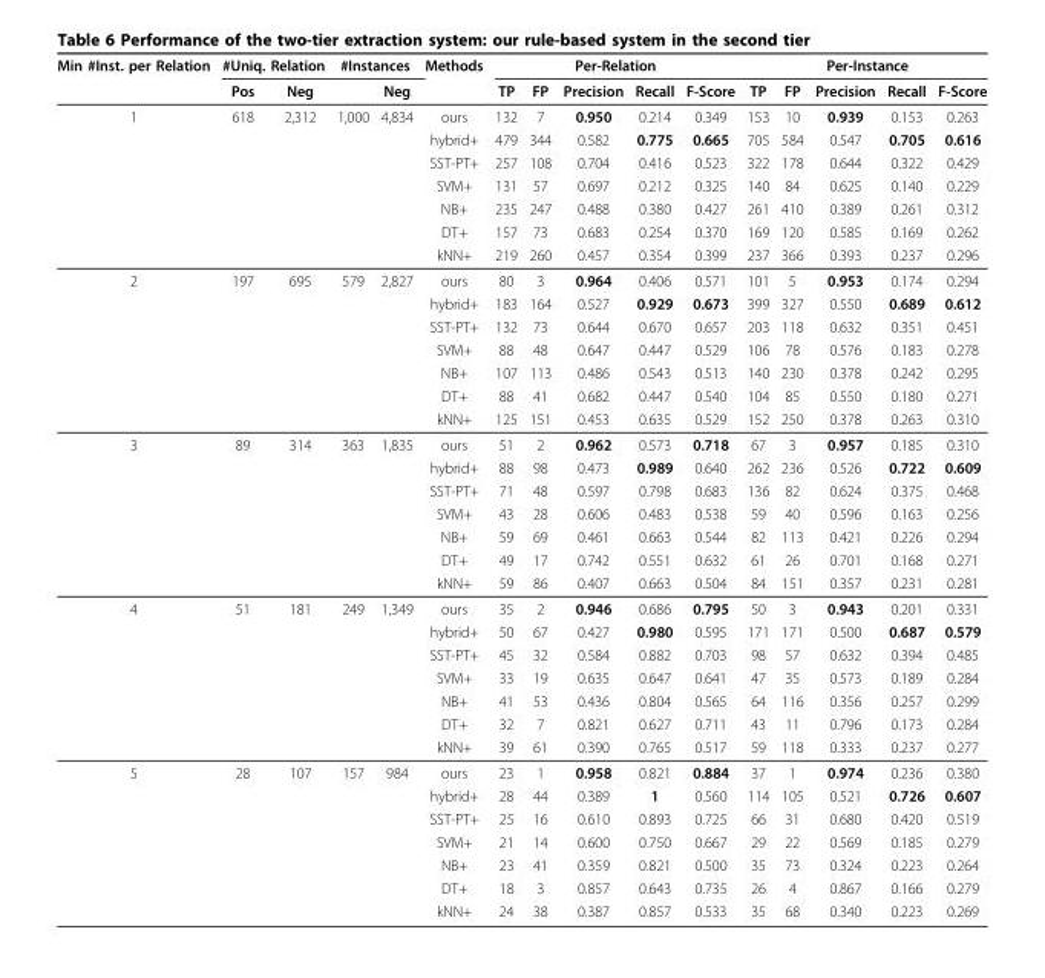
<table><thead><tr><td rowspan="2">Min #Inst. per Relation</td><td colspan="2">#Uniq. Relation</td><td colspan="2">#Instances</td><td rowspan="2">Methods</td><td colspan="5">Per-Relation</td><td colspan="5">Per-Instance</td></tr><tr><td>Pos</td><td>Neg</td><td></td><td>Neg</td><td>TP</td><td>FP</td><td>Precision</td><td>Recall</td><td>F-Score</td><td>TP</td><td>FP</td><td>Precision</td><td>Recall</td><td>F-Score</td></tr></thead><tbody><tr><td rowspan="7">1</td><td>618</td><td>2,312</td><td>1,000</td><td>4,834</td><td>ours</td><td>132</td><td>7</td><td>0.950</td><td>0.214</td><td>0.349</td><td>153</td><td>10</td><td>0.939</td><td>0.153</td><td>0.263</td></tr><tr><td></td><td></td><td></td><td></td><td>hybrid+</td><td>479</td><td>344</td><td>0.582</td><td>0.775</td><td>0.665</td><td>705</td><td>584</td><td>0.547</td><td>0.705</td><td>0.616</td></tr><tr><td></td><td></td><td></td><td></td><td>SST-PT+</td><td>257</td><td>108</td><td>0.704</td><td>0.416</td><td>0.523</td><td>322</td><td>178</td><td>0.644</td><td>0.322</td><td>0.429</td></tr><tr><td></td><td></td><td></td><td></td><td>SVM+</td><td>131</td><td>57</td><td>0.697</td><td>0.212</td><td>0.325</td><td>140</td><td>84</td><td>0.625</td><td>0.140</td><td>0.229</td></tr><tr><td></td><td></td><td></td><td></td><td>NB+</td><td>235</td><td>247</td><td>0.488</td><td>0.380</td><td>0.427</td><td>261</td><td>410</td><td>0.389</td><td>0.261</td><td>0.312</td></tr><tr><td></td><td></td><td></td><td></td><td>DT+</td><td>157</td><td>73</td><td>0.683</td><td>0.254</td><td>0.370</td><td>169</td><td>120</td><td>0.585</td><td>0.169</td><td>0.262</td></tr><tr><td></td><td></td><td></td><td></td><td>kNN+</td><td>219</td><td>260</td><td>0.457</td><td>0.354</td><td>0.399</td><td>237</td><td>366</td><td>0.393</td><td>0.237</td><td>0.296</td></tr><tr><td rowspan="7">2</td><td>197</td><td>695</td><td>579</td><td>2,827</td><td>ours</td><td>80</td><td>3</td><td>0.964</td><td>0.406</td><td>0.571</td><td>101</td><td>5</td><td>0.953</td><td>0.174</td><td>0.294</td></tr><tr><td></td><td></td><td></td><td></td><td>hybrid+</td><td>183</td><td>164</td><td>0.527</td><td>0.929</td><td>0.673</td><td>399</td><td>327</td><td>0.550</td><td>0.689</td><td>0.612</td></tr><tr><td></td><td></td><td></td><td></td><td>SST-PT+</td><td>132</td><td>73</td><td>0.644</td><td>0.670</td><td>0.657</td><td>203</td><td>118</td><td>0.632</td><td>0.351</td><td>0.451</td></tr><tr><td></td><td></td><td></td><td></td><td>SVM+</td><td>88</td><td>48</td><td>0.647</td><td>0.447</td><td>0.529</td><td>106</td><td>78</td><td>0.576</td><td>0.183</td><td>0.278</td></tr><tr><td></td><td></td><td></td><td></td><td>NB+</td><td>107</td><td>113</td><td>0.486</td><td>0.543</td><td>0.513</td><td>140</td><td>230</td><td>0.378</td><td>0.242</td><td>0.295</td></tr><tr><td></td><td></td><td></td><td></td><td>DT+</td><td>88</td><td>41</td><td>0.682</td><td>0.447</td><td>0.540</td><td>104</td><td>85</td><td>0.550</td><td>0.180</td><td>0.271</td></tr><tr><td></td><td></td><td></td><td></td><td>kNN+</td><td>125</td><td>151</td><td>0.453</td><td>0.635</td><td>0.529</td><td>152</td><td>250</td><td>0.378</td><td>0.263</td><td>0.310</td></tr><tr><td rowspan="7">3</td><td>89</td><td>314</td><td>363</td><td>1,835</td><td>ours</td><td>51</td><td>2</td><td>0.962</td><td>0.573</td><td>0.718</td><td>67</td><td>3</td><td>0.957</td><td>0.185</td><td>0.310</td></tr><tr><td></td><td></td><td></td><td></td><td>hybrid+</td><td>88</td><td>98</td><td>0.473</td><td>0.989</td><td>0.640</td><td>262</td><td>236</td><td>0.526</td><td>0.722</td><td>0.609</td></tr><tr><td></td><td></td><td></td><td></td><td>SST-PT+</td><td>71</td><td>48</td><td>0.597</td><td>0.798</td><td>0.683</td><td>136</td><td>82</td><td>0.624</td><td>0.375</td><td>0.468</td></tr><tr><td></td><td></td><td></td><td></td><td>SVM+</td><td>43</td><td>28</td><td>0.606</td><td>0.483</td><td>0.538</td><td>59</td><td>40</td><td>0.596</td><td>0.163</td><td>0.256</td></tr><tr><td></td><td></td><td></td><td></td><td>NB+</td><td>59</td><td>69</td><td>0.461</td><td>0.663</td><td>0.544</td><td>82</td><td>113</td><td>0.421</td><td>0.226</td><td>0.294</td></tr><tr><td></td><td></td><td></td><td></td><td>DT+</td><td>49</td><td>17</td><td>0.742</td><td>0.551</td><td>0.632</td><td>61</td><td>26</td><td>0.701</td><td>0.168</td><td>0.271</td></tr><tr><td></td><td></td><td></td><td></td><td>kNN+</td><td>59</td><td>86</td><td>0.407</td><td>0.663</td><td>0.504</td><td>84</td><td>151</td><td>0.357</td><td>0.231</td><td>0.281</td></tr><tr><td rowspan="7">4</td><td>51</td><td>181</td><td>249</td><td>1,349</td><td>ours</td><td>35</td><td>2</td><td>0.946</td><td>0.686</td><td>0.795</td><td>50</td><td>3</td><td>0.943</td><td>0.201</td><td>0.331</td></tr><tr><td></td><td></td><td></td><td></td><td>hybrid+</td><td>50</td><td>67</td><td>0.427</td><td>0.980</td><td>0.595</td><td>171</td><td>171</td><td>0.500</td><td>0.687</td><td>0.579</td></tr><tr><td></td><td></td><td></td><td></td><td>SST-PT+</td><td>45</td><td>32</td><td>0.584</td><td>0.882</td><td>0.703</td><td>98</td><td>57</td><td>0.632</td><td>0.394</td><td>0.485</td></tr><tr><td></td><td></td><td></td><td></td><td>SVM+</td><td>33</td><td>19</td><td>0.635</td><td>0.647</td><td>0.641</td><td>47</td><td>35</td><td>0.573</td><td>0.189</td><td>0.284</td></tr><tr><td></td><td></td><td></td><td></td><td>NB+</td><td>41</td><td>53</td><td>0.436</td><td>0.804</td><td>0.565</td><td>64</td><td>116</td><td>0.356</td><td>0.257</td><td>0.299</td></tr><tr><td></td><td></td><td></td><td></td><td>DT+</td><td>32</td><td>7</td><td>0.821</td><td>0.627</td><td>0.711</td><td>43</td><td>11</td><td>0.796</td><td>0.173</td><td>0.284</td></tr><tr><td></td><td></td><td></td><td></td><td>kNN+</td><td>39</td><td>61</td><td>0.390</td><td>0.765</td><td>0.517</td><td>59</td><td>118</td><td>0.333</td><td>0.237</td><td>0.277</td></tr><tr><td rowspan="7">5</td><td>28</td><td>107</td><td>157</td><td>984</td><td>ours</td><td>23</td><td>1</td><td>0.958</td><td>0.821</td><td>0.884</td><td>37</td><td>1</td><td>0.974</td><td>0.236</td><td>0.380</td></tr><tr><td></td><td></td><td></td><td></td><td>hybrid+</td><td>28</td><td>44</td><td>0.389</td><td>1</td><td>0.560</td><td>114</td><td>105</td><td>0.521</td><td>0.726</td><td>0.607</td></tr><tr><td></td><td></td><td></td><td></td><td>SST-PT+</td><td>25</td><td>16</td><td>0.610</td><td>0.893</td><td>0.725</td><td>66</td><td>31</td><td>0.680</td><td>0.420</td><td>0.519</td></tr><tr><td></td><td></td><td></td><td></td><td>SVM+</td><td>21</td><td>14</td><td>0.600</td><td>0.750</td><td>0.667</td><td>29</td><td>22</td><td>0.569</td><td>0.185</td><td>0.279</td></tr><tr><td></td><td></td><td></td><td></td><td>NB+</td><td>23</td><td>41</td><td>0.359</td><td>0.821</td><td>0.500</td><td>35</td><td>73</td><td>0.324</td><td>0.223</td><td>0.264</td></tr><tr><td></td><td></td><td></td><td></td><td>DT+</td><td>18</td><td>3</td><td>0.857</td><td>0.643</td><td>0.735</td><td>26</td><td>4</td><td>0.867</td><td>0.166</td><td>0.279</td></tr><tr><td></td><td></td><td></td><td></td><td>kNN+</td><td>24</td><td>38</td><td>0.387</td><td>0.857</td><td>0.533</td><td>35</td><td>68</td><td>0.340</td><td>0.223</td><td>0.269</td></tr></tbody></table>